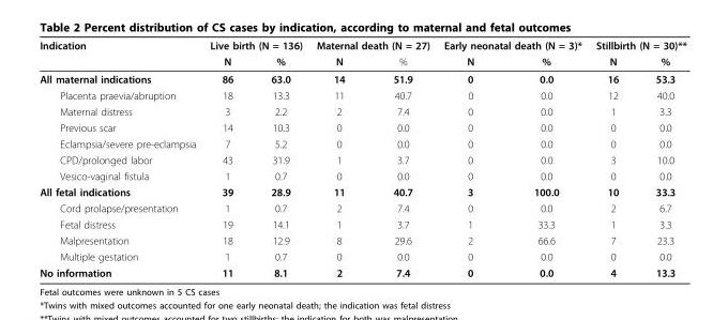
<table><thead><tr><td rowspan="2">Indication</td><td colspan="2">Live birth (N = 136)</td><td colspan="2">Maternal death (N = 27)</td><td colspan="2">Early neonatal death (N = 3)*</td><td colspan="2">Stillbirth (N = 30)**</td></tr><tr><td>N</td><td>%</td><td>N</td><td>%</td><td>N</td><td>%</td><td>N</td><td>%</td></tr></thead><tbody><tr><td>All maternal indications</td><td>86</td><td>63.0</td><td>14</td><td>51.9</td><td>0</td><td>0.0</td><td>16</td><td>53.3</td></tr><tr><td>Placenta praevia/abruption</td><td>18</td><td>13.3</td><td>11</td><td>40.7</td><td>0</td><td>0.0</td><td>12</td><td>40.0</td></tr><tr><td>Maternal distress</td><td>3</td><td>2.2</td><td>2</td><td>7.4</td><td>0</td><td>0.0</td><td>1</td><td>3.3</td></tr><tr><td>Previous scar</td><td>14</td><td>10.3</td><td>0</td><td>0.0</td><td>0</td><td>0.0</td><td>0</td><td>0.0</td></tr><tr><td>Eclampsia/severe pre-eclampsia</td><td>7</td><td>5.2</td><td>0</td><td>0.0</td><td>0</td><td>0.0</td><td>0</td><td>0.0</td></tr><tr><td>CPD/prolonged labor</td><td>43</td><td>31.9</td><td>1</td><td>3.7</td><td>0</td><td>0.0</td><td>3</td><td>10.0</td></tr><tr><td>Vesico-vaginal fistula</td><td>1</td><td>0.7</td><td>0</td><td>0.0</td><td>0</td><td>0.0</td><td>0</td><td>0.0</td></tr><tr><td>All fetal indications</td><td>39</td><td>28.9</td><td>11</td><td>40.7</td><td>3</td><td>100.0</td><td>10</td><td>33.3</td></tr><tr><td>Cord prolapse/presentation</td><td>1</td><td>0.7</td><td>2</td><td>7.4</td><td>0</td><td>0.0</td><td>2</td><td>6.7</td></tr><tr><td>Fetal distress</td><td>19</td><td>14.1</td><td>1</td><td>3.7</td><td>1</td><td>33.3</td><td>1</td><td>3.3</td></tr><tr><td>Malpresentation</td><td>18</td><td>12.9</td><td>8</td><td>29.6</td><td>2</td><td>66.6</td><td>7</td><td>23.3</td></tr><tr><td>Multiple gestation</td><td>1</td><td>0.7</td><td>0</td><td>0.0</td><td>0</td><td>0.0</td><td>0</td><td>0.0</td></tr><tr><td>No information</td><td>11</td><td>8.1</td><td>2</td><td>7.4</td><td>0</td><td>0.0</td><td>4</td><td>13.3</td></tr></tbody></table>